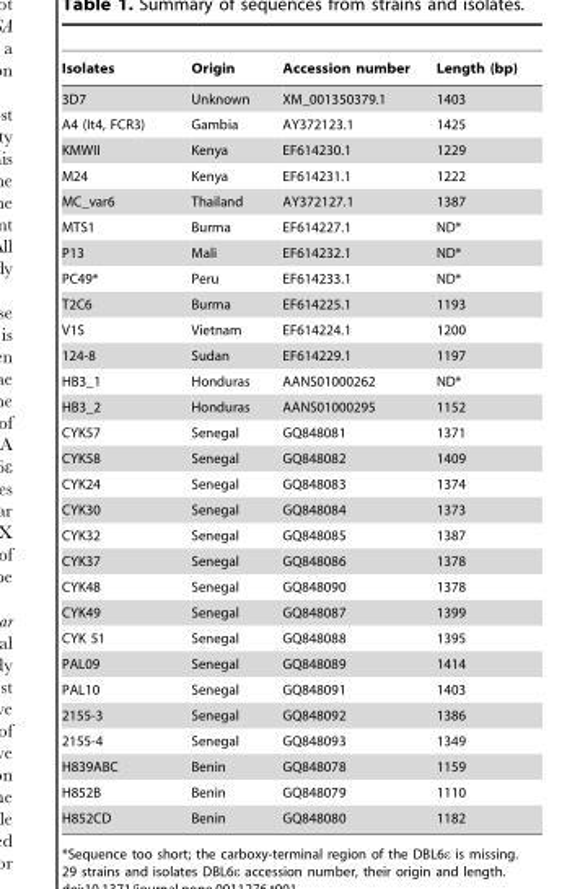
<table><thead><tr><td>Isolates</td><td>Origin</td><td>Accession number</td><td>Length (bp)</td></tr></thead><tbody><tr><td>3D7</td><td>Unknown</td><td>XM_001350379.1</td><td>1403</td></tr><tr><td>A4 (It4, FCR3)</td><td>Gambia</td><td>AY372123.1</td><td>1425</td></tr><tr><td>KMWII</td><td>Kenya</td><td>EF614230.1</td><td>1229</td></tr><tr><td>M24</td><td>Kenya</td><td>EF614231.1</td><td>1222</td></tr><tr><td>MC_var6</td><td>Thailand</td><td>AY372127.1</td><td>1387</td></tr><tr><td>MTS1</td><td>Burma</td><td>EF614227.1</td><td>ND*</td></tr><tr><td>P13</td><td>Mali</td><td>EF614232.1</td><td>ND*</td></tr><tr><td>PC49*</td><td>Peru</td><td>EF614233.1</td><td>ND*</td></tr><tr><td>T2C6</td><td>Burma</td><td>EF614225.1</td><td>1193</td></tr><tr><td>V1S</td><td>Vietnam</td><td>EF614224.1</td><td>1200</td></tr><tr><td>124-8</td><td>Sudan</td><td>EF614229.1</td><td>1197</td></tr><tr><td>HB3_1</td><td>Honduras</td><td>AANS01000262</td><td>ND*</td></tr><tr><td>HB3_2</td><td>Honduras</td><td>AANS01000295</td><td>1152</td></tr><tr><td>CYK57</td><td>Senegal</td><td>GQ848081</td><td>1371</td></tr><tr><td>CYK58</td><td>Senegal</td><td>GQ848082</td><td>1409</td></tr><tr><td>CYK24</td><td>Senegal</td><td>GQ848083</td><td>1374</td></tr><tr><td>CYK30</td><td>Senegal</td><td>GQ848084</td><td>1373</td></tr><tr><td>CYK32</td><td>Senegal</td><td>GQ848085</td><td>1387</td></tr><tr><td>CYK37</td><td>Senegal</td><td>GQ848086</td><td>1378</td></tr><tr><td>CYK48</td><td>Senegal</td><td>GQ848090</td><td>1378</td></tr><tr><td>CYK49</td><td>Senegal</td><td>GQ848087</td><td>1399</td></tr><tr><td>CYK 51</td><td>Senegal</td><td>GQ848088</td><td>1395</td></tr><tr><td>PAL09</td><td>Senegal</td><td>GQ848089</td><td>1414</td></tr><tr><td>PAL10</td><td>Senegal</td><td>GQ848091</td><td>1403</td></tr><tr><td>2155-3</td><td>Senegal</td><td>GQ848092</td><td>1386</td></tr><tr><td>2155-4</td><td>Senegal</td><td>GQ848093</td><td>1349</td></tr><tr><td>H839ABC</td><td>Benin</td><td>GQ848078</td><td>1159</td></tr><tr><td>H852B</td><td>Benin</td><td>GQ848079</td><td>1110</td></tr><tr><td>H852CD</td><td>Benin</td><td>GQ848080</td><td>1182</td></tr></tbody></table>